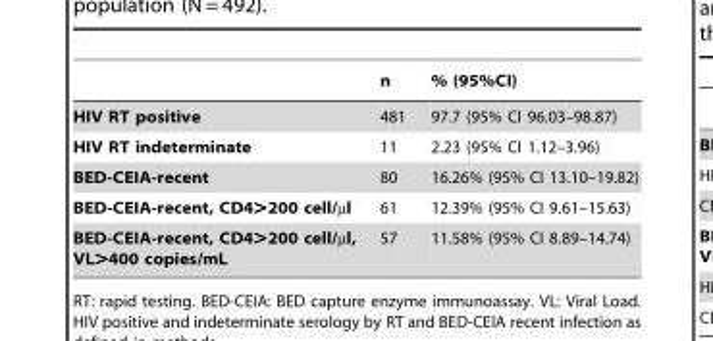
<table><thead><tr><td></td><td>n</td><td>% (95%CI)</td></tr></thead><tbody><tr><td>HIV RT positive</td><td>481</td><td>97.7 (95% CI 96.03–98.87)</td></tr><tr><td>HIV RT indeterminate</td><td>11</td><td>2.23 (95% CI 1.12–3.96)</td></tr><tr><td>BED-CEIA-recent</td><td>80</td><td>16.26% (95% CI 13.10–19.82)</td></tr><tr><td>BED-CEIA-recent, CD4&gt;200 cell/µl</td><td>61</td><td>12.39% (95% CI 9.61–15.63)</td></tr><tr><td>BED-CEIA-recent, CD4&gt;200 cell/µl, VL&gt;400 copies/mL</td><td>57</td><td>11.58% (95% CI 8.89–14.74)</td></tr></tbody></table>